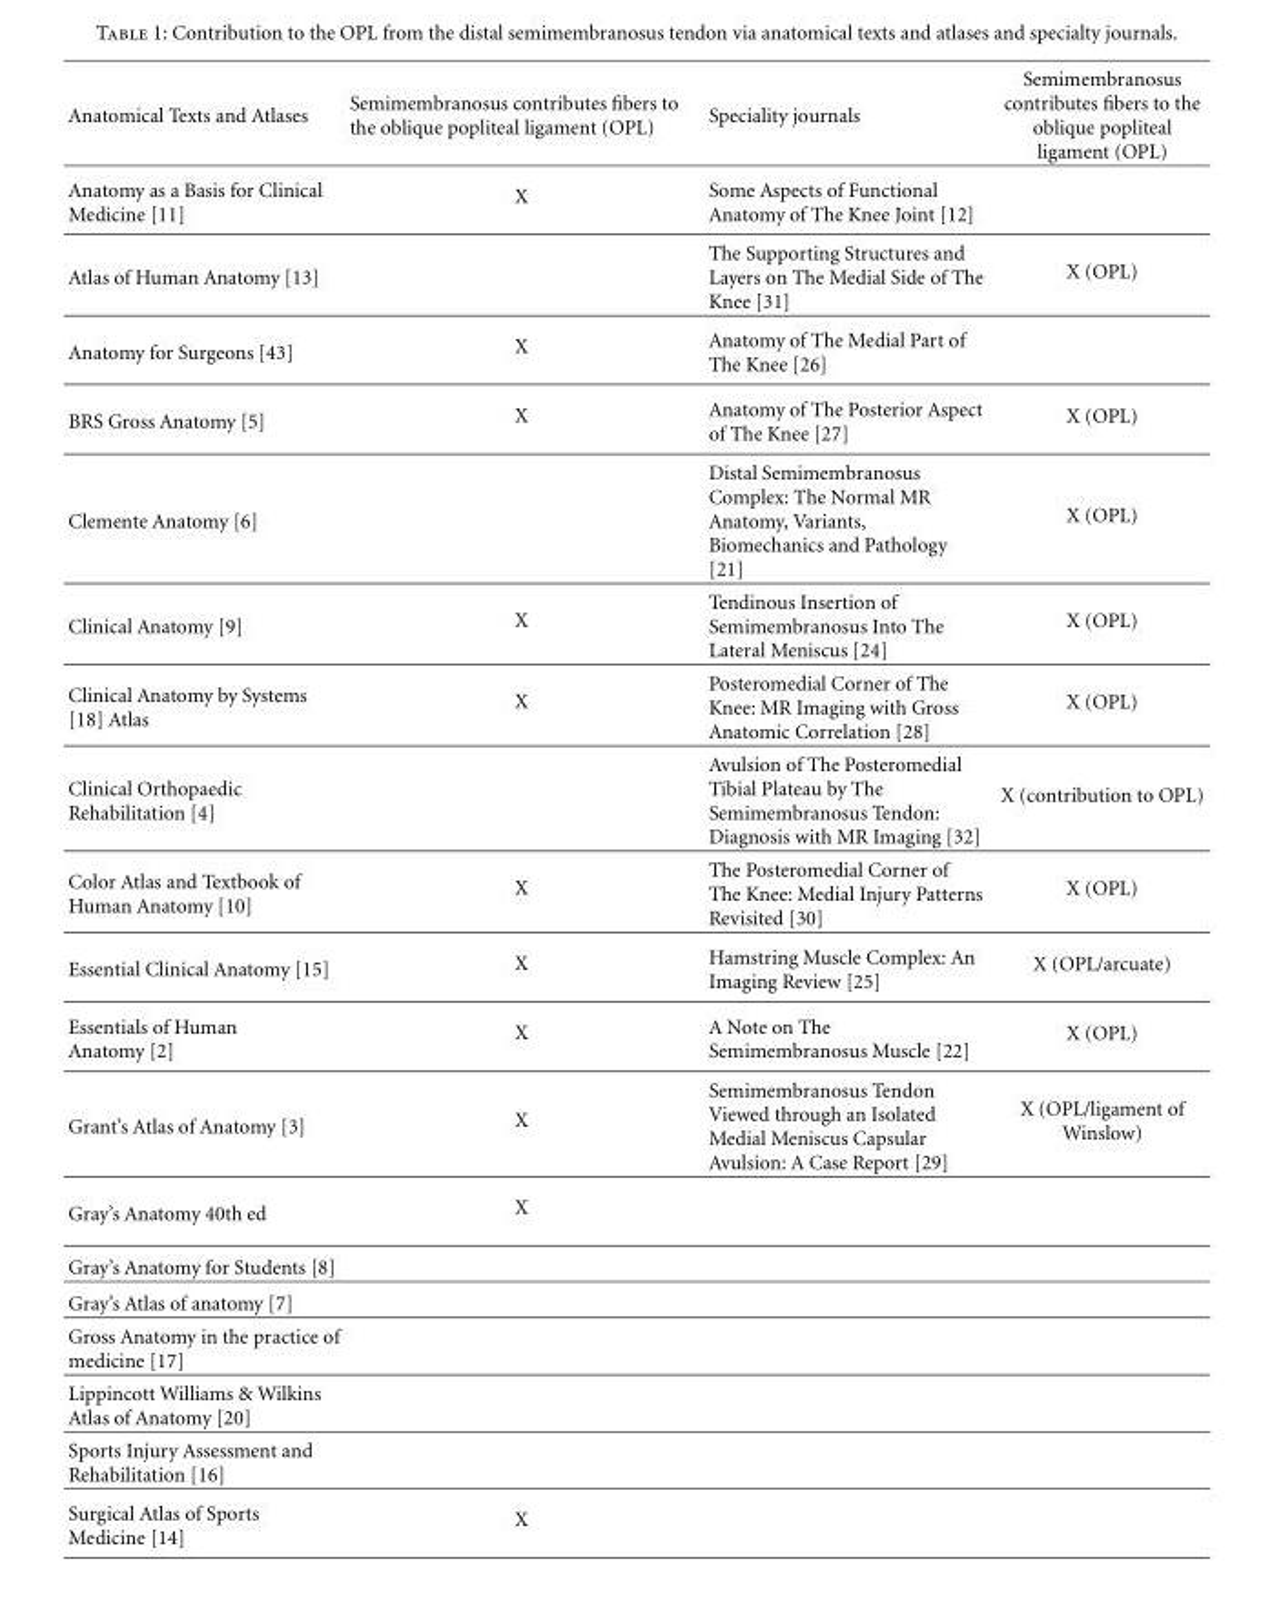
<table><thead><tr><td>Anatomical Texts and Atlases</td><td>Semimembranosus contributes fibers to the oblique popliteal ligament (OPL)</td><td>Speciality journals</td><td>Semimembranosus contributes fibers to the oblique popliteal ligament (OPL)</td></tr></thead><tbody><tr><td>Anatomy as a Basis for Clinical Medicine [11]</td><td>X</td><td>Some Aspects of Functional Anatomy of The Knee Joint [12]</td><td></td></tr><tr><td>Atlas of Human Anatomy [13]</td><td></td><td>The Supporting Structures and Layers on The Medial Side of The Knee [31]</td><td>X (OPL)</td></tr><tr><td>Anatomy for Surgeons [43]</td><td>X</td><td>Anatomy of The Medial Part of The Knee [26]</td><td></td></tr><tr><td>BRS Gross Anatomy [5]</td><td>X</td><td>Anatomy of The Posterior Aspect of The Knee [27]</td><td>X (OPL)</td></tr><tr><td>Clemente Anatomy [6]</td><td></td><td>Distal Semimembranosus Complex: The Normal MR Anatomy, Variants, Biomechanics and Pathology [21]</td><td>X (OPL)</td></tr><tr><td>Clinical Anatomy [9]</td><td>X</td><td>Tendinous Insertion of Semimembranosus Into The Lateral Meniscus [24]</td><td>X (OPL)</td></tr><tr><td>Clinical Anatomy by Systems [18] Atlas</td><td>X</td><td>Posteromedial Corner of The Knee: MR Imaging with Gross Anatomic Correlation [28]</td><td>X (OPL)</td></tr><tr><td>Clinical Orthopaedic Rehabilitation [4]</td><td></td><td>Avulsion of The Posteromedial Tibial Plateau by The Semimembranosus Tendon: Diagnosis with MR Imaging [32]</td><td>X (contribution to OPL)</td></tr><tr><td>Color Atlas and Textbook of Human Anatomy [10]</td><td>X</td><td>The Posteromedial Corner of The Knee: Medial Injury Patterns Revisited [30]</td><td>X (OPL)</td></tr><tr><td>Essential Clinical Anatomy [15]</td><td>X</td><td>Hamstring Muscle Complex: An Imaging Review [25]</td><td>X (OPL/arcuate)</td></tr><tr><td>Essentials of Human Anatomy [2]</td><td>X</td><td>A Note on The Semimembranosus Muscle [22]</td><td>X (OPL)</td></tr><tr><td>Grant’s Atlas of Anatomy [3]</td><td>X</td><td>Semimembranosus Tendon Viewed through an Isolated Medial Meniscus Capsular Avulsion: A Case Report [29]</td><td>X (OPL/ligament of Winslow)</td></tr><tr><td>Gray’s Anatomy 40th ed</td><td>X</td><td></td><td></td></tr><tr><td colspan="4">Gray’s Anatomy for Students [8]</td></tr><tr><td colspan="4">Gray’s Atlas of anatomy [7]</td></tr><tr><td colspan="4">Gross Anatomy in the practice of medicine [17]</td></tr><tr><td colspan="4">Lippincott Williams &amp; Wilkins Atlas of Anatomy [20]</td></tr><tr><td colspan="4">Sports Injury Assessment and Rehabilitation [16]</td></tr><tr><td>Surgical Atlas of Sports Medicine [14]</td><td>X</td><td></td><td></td></tr></tbody></table>